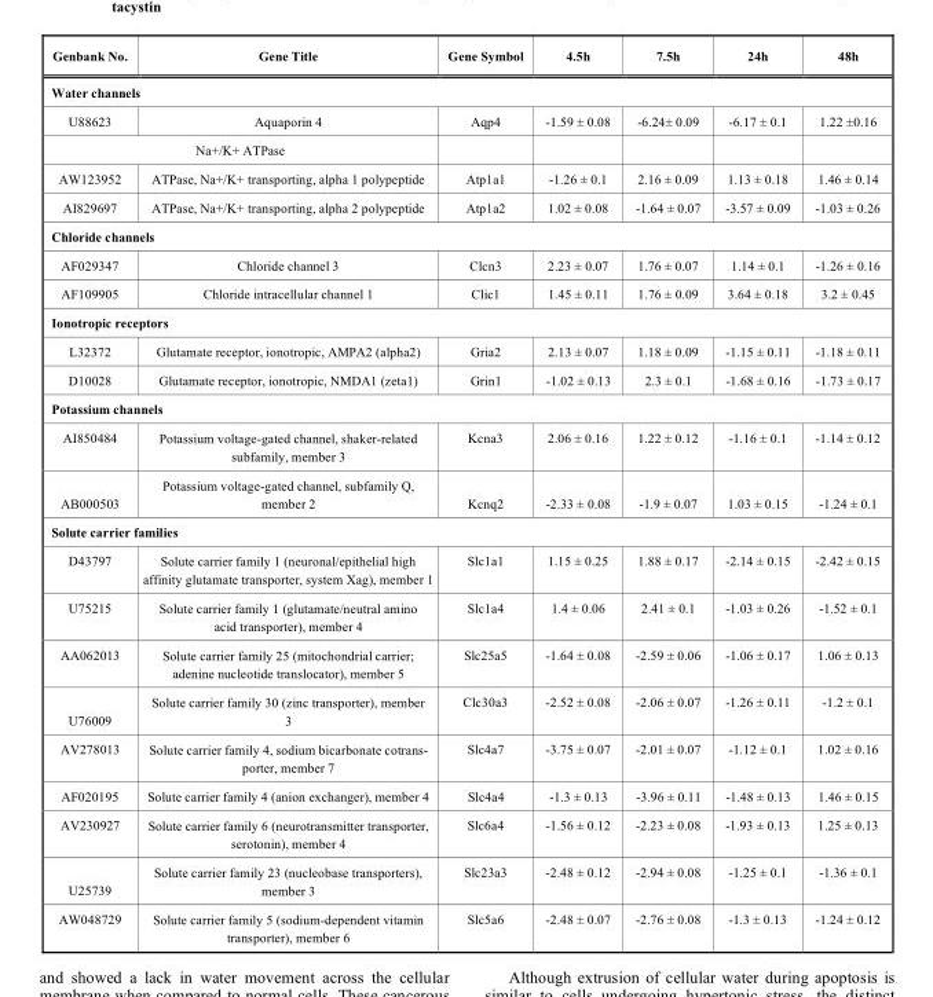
<table><thead><tr><td>Genbank No.</td><td>Gene Title</td><td>Gene Symbol</td><td>4.5h</td><td>7.5h</td><td>24h</td><td>48h</td></tr></thead><tbody><tr><td colspan="7">Water channels</td></tr><tr><td>U88623</td><td>Aquaporin 4</td><td>Aqp4</td><td>-1.59 ± 0.08</td><td>-6.24± 0.09</td><td>-6.17 ± 0.1</td><td>1.22 ±0.16</td></tr><tr><td colspan="7">Na+/K+ ATPase</td></tr><tr><td>AW123952</td><td>ATPase, Na+/K+ transporting, alpha 1 polypeptide</td><td>Atp1a1</td><td>-1.26 ± 0.1</td><td>2.16 ± 0.09</td><td>1.13 ± 0.18</td><td>1.46 ± 0.14</td></tr><tr><td>AI829697</td><td>ATPase, Na+/K+ transporting, alpha 2 polypeptide</td><td>Atp1a2</td><td>1.02 ± 0.08</td><td>-1.64 ± 0.07</td><td>-3.57 ± 0.09</td><td>-1.03 ± 0.26</td></tr><tr><td colspan="7">Chloride channels</td></tr><tr><td>AF029347</td><td>Chloride channel 3</td><td>Clcn3</td><td>2.23 ± 0.07</td><td>1.76 ± 0.07</td><td>1.14 ± 0.1</td><td>-1.26 ± 0.16</td></tr><tr><td>AF109905</td><td>Chloride intracellular channel 1</td><td>Clic1</td><td>1.45 ± 0.11</td><td>1.76 ± 0.09</td><td>3.64 ± 0.18</td><td>3.2 ± 0.45</td></tr><tr><td colspan="7">Ionotropic receptors</td></tr><tr><td>L32372</td><td>Glutamate receptor, ionotropic, AMPA2 (alpha2)</td><td>Gria2</td><td>2.13 ± 0.07</td><td>1.18 ± 0.09</td><td>-1.15 ± 0.11</td><td>-1.18 ± 0.11</td></tr><tr><td>D10028</td><td>Glutamate receptor, ionotropic, NMDA1 (zeta1)</td><td>Grin1</td><td>-1.02 ± 0.13</td><td>2.3 ± 0.1</td><td>-1.68 ± 0.16</td><td>-1.73 ± 0.17</td></tr><tr><td colspan="7">Potassium channels</td></tr><tr><td>AI850484</td><td>Potassium voltage-gated channel, shaker-related subfamily, member 3</td><td>Kcna3</td><td>2.06 ± 0.16</td><td>1.22 ± 0.12</td><td>-1.16 ± 0.1</td><td>-1.14 ± 0.12</td></tr><tr><td>AB000503</td><td>Potassium voltage-gated channel, subfamily Q, member 2</td><td>Kcnq2</td><td>-2.33 ± 0.08</td><td>-1.9 ± 0.07</td><td>1.03 ± 0.15</td><td>-1.24 ± 0.1</td></tr><tr><td colspan="7">Solute carrier families</td></tr><tr><td>D43797</td><td>Solute carrier family 1 (neuronal/epithelial high affinity glutamate transporter, system Xag), member 1</td><td>Slc1a1</td><td>1.15 ± 0.25</td><td>1.88 ± 0.17</td><td>-2.14 ± 0.15</td><td>-2.42 ± 0.15</td></tr><tr><td>U75215</td><td>Solute carrier family 1 (glutamate/neutral amino acid transporter), member 4</td><td>Slc1a4</td><td>1.4 ± 0.06</td><td>2.41 ± 0.1</td><td>-1.03 ± 0.26</td><td>-1.52 ± 0.1</td></tr><tr><td>AA062013</td><td>Solute carrier family 25 (mitochondrial carrier; adenine nucleotide translocator), member 5</td><td>Slc25a5</td><td>-1.64 ± 0.08</td><td>-2.59 ± 0.06</td><td>-1.06 ± 0.17</td><td>1.06 ± 0.13</td></tr><tr><td>U76009</td><td>Solute carrier family 30 (zinc transporter), member 3</td><td>Clc30a3</td><td>-2.52 ± 0.08</td><td>-2.06 ± 0.07</td><td>-1.26 ± 0.11</td><td>-1.2 ± 0.1</td></tr><tr><td>AV278013</td><td>Solute carrier family 4, sodium bicarbonate cotrans- porter, member 7</td><td>Slc4a7</td><td>-3.75 ± 0.07</td><td>-2.01 ± 0.07</td><td>-1.12 ± 0.1</td><td>1.02 ± 0.16</td></tr><tr><td>AF020195</td><td>Solute carrier family 4 (anion exchanger), member 4</td><td>Slc4a4</td><td>-1.3 ± 0.13</td><td>-3.96 ± 0.11</td><td>-1.48 ± 0.13</td><td>1.46 ± 0.15</td></tr><tr><td>AV230927</td><td>Solute carrier family 6 (neurotransmitter transporter, serotonin), member 4</td><td>Slc6a4</td><td>-1.56 ± 0.12</td><td>-2.23 ± 0.08</td><td>-1.93 ± 0.13</td><td>1.25 ± 0.13</td></tr><tr><td>U25739</td><td>Solute carrier family 23 (nucleobase transporters), member 3</td><td>Slc23a3</td><td>-2.48 ± 0.12</td><td>-2.94 ± 0.08</td><td>-1.25 ± 0.1</td><td>-1.36 ± 0.1</td></tr><tr><td>AW048729</td><td>Solute carrier family 5 (sodium-dependent vitamin transporter), member 6</td><td>Slc5a6</td><td>-2.48 ± 0.07</td><td>-2.76 ± 0.08</td><td>-1.3 ± 0.13</td><td>-1.24 ± 0.12</td></tr></tbody></table>